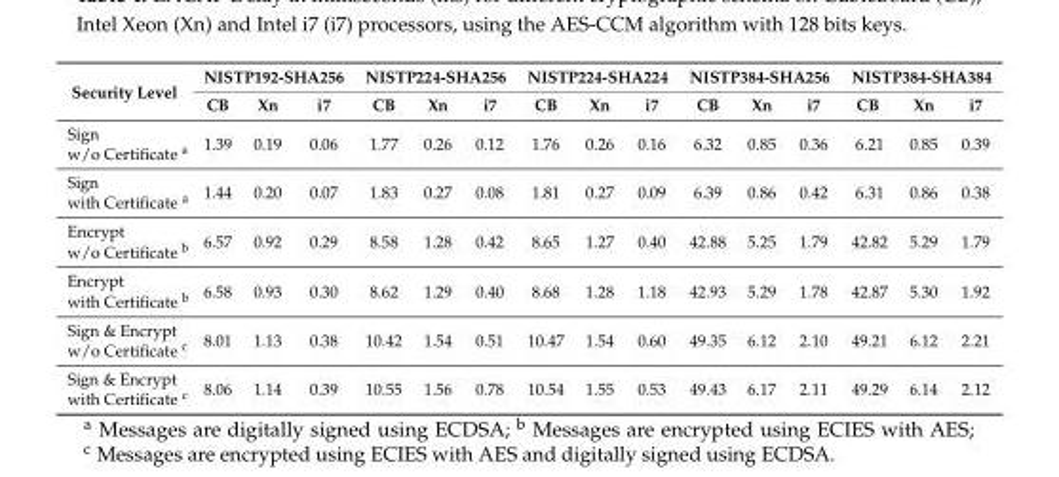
<table><thead><tr><td rowspan="2">Security Level</td><td colspan="3">NISTP192-SHA256</td><td colspan="3">NISTP224-SHA256</td><td colspan="3">NISTP224-SHA224</td><td colspan="3">NISTP384-SHA256</td><td colspan="3">NISTP384-SHA384</td></tr><tr><td>CB</td><td>Xn</td><td>i7</td><td>CB</td><td>Xn</td><td>i7</td><td>CB</td><td>Xn</td><td>i7</td><td>CB</td><td>Xn</td><td>i7</td><td>CB</td><td>Xn</td><td>i7</td></tr></thead><tbody><tr><td>Sign w/o Certificate <sup>a</sup></td><td>1.39</td><td>0.19</td><td>0.06</td><td>1.77</td><td>0.26</td><td>0.12</td><td>1.76</td><td>0.26</td><td>0.16</td><td>6.32</td><td>0.85</td><td>0.36</td><td>6.21</td><td>0.85</td><td>0.39</td></tr><tr><td>Sign with Certificate <sup>a</sup></td><td>1.44</td><td>0.20</td><td>0.07</td><td>1.83</td><td>0.27</td><td>0.08</td><td>1.81</td><td>0.27</td><td>0.09</td><td>6.39</td><td>0.86</td><td>0.42</td><td>6.31</td><td>0.86</td><td>0.38</td></tr><tr><td>Encrypt w/o Certificate <sup>b</sup></td><td>6.57</td><td>0.92</td><td>0.29</td><td>8.58</td><td>1.28</td><td>0.42</td><td>8.65</td><td>1.27</td><td>0.40</td><td>42.88</td><td>5.25</td><td>1.79</td><td>42.82</td><td>5.29</td><td>1.79</td></tr><tr><td>Encrypt with Certificate <sup>b</sup></td><td>6.58</td><td>0.93</td><td>0.30</td><td>8.62</td><td>1.29</td><td>0.40</td><td>8.68</td><td>1.28</td><td>1.18</td><td>42.93</td><td>5.29</td><td>1.78</td><td>42.87</td><td>5.30</td><td>1.92</td></tr><tr><td>Sign &amp; Encrypt w/o Certificate <sup>c</sup></td><td>8.01</td><td>1.13</td><td>0.38</td><td>10.42</td><td>1.54</td><td>0.51</td><td>10.47</td><td>1.54</td><td>0.60</td><td>49.35</td><td>6.12</td><td>2.10</td><td>49.21</td><td>6.12</td><td>2.21</td></tr><tr><td>Sign &amp; Encrypt with Certificate <sup>c</sup></td><td>8.06</td><td>1.14</td><td>0.39</td><td>10.55</td><td>1.56</td><td>0.78</td><td>10.54</td><td>1.55</td><td>0.53</td><td>49.43</td><td>6.17</td><td>2.11</td><td>49.29</td><td>6.14</td><td>2.12</td></tr></tbody></table>